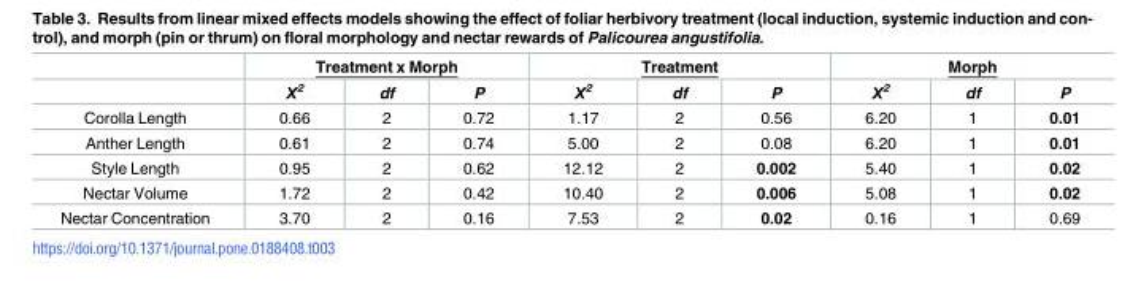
<table><thead><tr><td rowspan="2"></td><td colspan="3">Treatment x Morph</td><td colspan="3">Treatment</td><td colspan="3">Morph</td></tr><tr><td>Χ<sup>2</sup></td><td>df</td><td>P</td><td>Χ<sup>2</sup></td><td>df</td><td>P</td><td>Χ<sup>2</sup></td><td>df</td><td>P</td></tr></thead><tbody><tr><td>Corolla Length</td><td>0.66</td><td>2</td><td>0.72</td><td>1.17</td><td>2</td><td>0.56</td><td>6.20</td><td>1</td><td>0.01</td></tr><tr><td>Anther Length</td><td>0.61</td><td>2</td><td>0.74</td><td>5.00</td><td>2</td><td>0.08</td><td>6.20</td><td>1</td><td>0.01</td></tr><tr><td>Style Length</td><td>0.95</td><td>2</td><td>0.62</td><td>12.12</td><td>2</td><td>0.002</td><td>5.40</td><td>1</td><td>0.02</td></tr><tr><td>Nectar Volume</td><td>1.72</td><td>2</td><td>0.42</td><td>10.40</td><td>2</td><td>0.006</td><td>5.08</td><td>1</td><td>0.02</td></tr><tr><td>Nectar Concentration</td><td>3.70</td><td>2</td><td>0.16</td><td>7.53</td><td>2</td><td>0.02</td><td>0.16</td><td>1</td><td>0.69</td></tr></tbody></table>